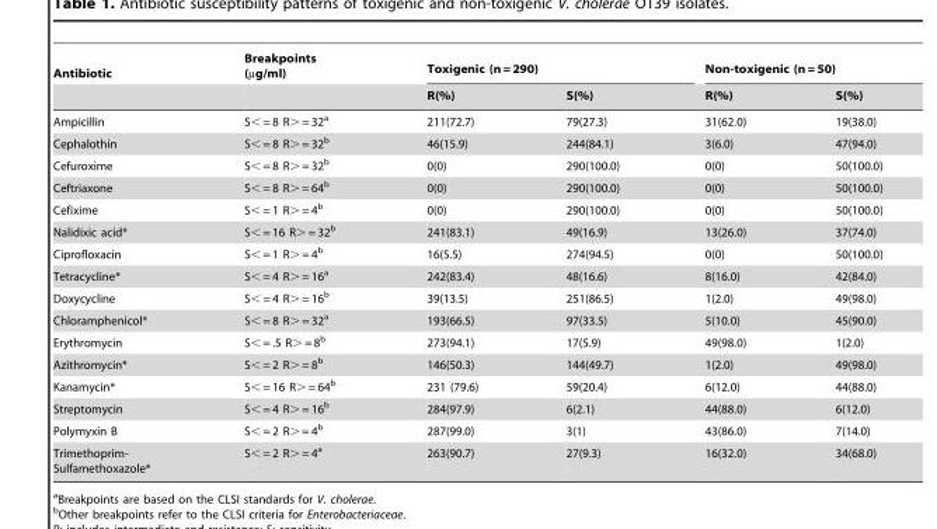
<table><thead><tr><td rowspan="2">Antibiotic</td><td rowspan="2">Breakpoints (µg/ml)</td><td colspan="2">Toxigenic (n = 290)</td><td colspan="2">Non-toxigenic (n = 50)</td></tr><tr><td>R(%)</td><td>S(%)</td><td>R(%)</td><td>S(%)</td></tr></thead><tbody><tr><td>Ampicillin</td><td>S&lt; = 8 R&gt; = 32<sup>a</sup></td><td>211(72.7)</td><td>79(27.3)</td><td>31(62.0)</td><td>19(38.0)</td></tr><tr><td>Cephalothin</td><td>S&lt; = 8 R&gt; = 32<sup>b</sup></td><td>46(15.9)</td><td>244(84.1)</td><td>3(6.0)</td><td>47(94.0)</td></tr><tr><td>Cefuroxime</td><td>S&lt; = 8 R&gt; = 32<sup>b</sup></td><td>0(0)</td><td>290(100.0)</td><td>0(0)</td><td>50(100.0)</td></tr><tr><td>Ceftriaxone</td><td>S&lt; = 8 R&gt; = 64<sup>b</sup></td><td>0(0)</td><td>290(100.0)</td><td>0(0)</td><td>50(100.0)</td></tr><tr><td>Cefixime</td><td>S&lt; = 1 R&gt; = 4<sup>b</sup></td><td>0(0)</td><td>290(100.0)</td><td>0(0)</td><td>50(100.0)</td></tr><tr><td>Nalidixic acid*</td><td>S&lt; = 16 R&gt; = 32<sup>b</sup></td><td>241(83.1)</td><td>49(16.9)</td><td>13(26.0)</td><td>37(74.0)</td></tr><tr><td>Ciprofloxacin</td><td>S&lt; = 1 R&gt; = 4<sup>b</sup></td><td>16(5.5)</td><td>274(94.5)</td><td>0(0)</td><td>50(100.0)</td></tr><tr><td>Tetracycline*</td><td>S&lt; = 4 R&gt; = 16<sup>a</sup></td><td>242(83.4)</td><td>48(16.6)</td><td>8(16.0)</td><td>42(84.0)</td></tr><tr><td>Doxycycline</td><td>S&lt; = 4 R&gt; = 16<sup>b</sup></td><td>39(13.5)</td><td>251(86.5)</td><td>1(2.0)</td><td>49(98.0)</td></tr><tr><td>Chloramphenicol*</td><td>S&lt; = 8 R&gt; = 32<sup>a</sup></td><td>193(66.5)</td><td>97(33.5)</td><td>5(10.0)</td><td>45(90.0)</td></tr><tr><td>Erythromycin</td><td>S&lt; = .5 R&gt; = 8<sup>b</sup></td><td>273(94.1)</td><td>17(5.9)</td><td>49(98.0)</td><td>1(2.0)</td></tr><tr><td>Azithromycin*</td><td>S&lt; = 2 R&gt; = 8<sup>b</sup></td><td>146(50.3)</td><td>144(49.7)</td><td>1(2.0)</td><td>49(98.0)</td></tr><tr><td>Kanamycin*</td><td>S&lt; = 16 R&gt; = 64<sup>b</sup></td><td>231 (79.6)</td><td>59(20.4)</td><td>6(12.0)</td><td>44(88.0)</td></tr><tr><td>Streptomycin</td><td>S&lt; = 4 R&gt; = 16<sup>b</sup></td><td>284(97.9)</td><td>6(2.1)</td><td>44(88.0)</td><td>6(12.0)</td></tr><tr><td>Polymyxin B</td><td>S&lt; = 2 R&gt; = 4<sup>b</sup></td><td>287(99.0)</td><td>3(1)</td><td>43(86.0)</td><td>7(14.0)</td></tr><tr><td>Trimethoprim- Sulfamethoxazole*</td><td>S&lt; = 2 R&gt; = 4<sup>a</sup></td><td>263(90.7)</td><td>27(9.3)</td><td>16(32.0)</td><td>34(68.0)</td></tr></tbody></table>